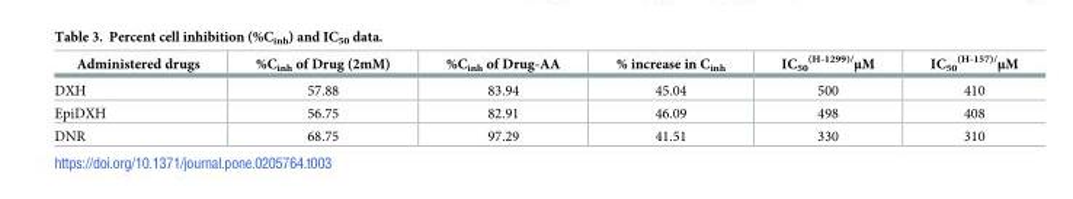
<table><thead><tr><td>Administered drugs</td><td>%C<sub>inh</sub> of Drug (2mM)</td><td>%C<sub>inh</sub> of Drug-AA</td><td>% increase in C<sub>inh</sub></td><td>IC<sub>50</sub> <sup>(H-1299)/</sup>μM</td><td>IC<sub>50</sub> <sup>(H-157)/</sup>μM</td></tr></thead><tbody><tr><td>DXH</td><td>57.88</td><td>83.94</td><td>45.04</td><td>500</td><td>410</td></tr><tr><td>EpiDXH</td><td>56.75</td><td>82.91</td><td>46.09</td><td>498</td><td>408</td></tr><tr><td>DNR</td><td>68.75</td><td>97.29</td><td>41.51</td><td>330</td><td>310</td></tr></tbody></table>